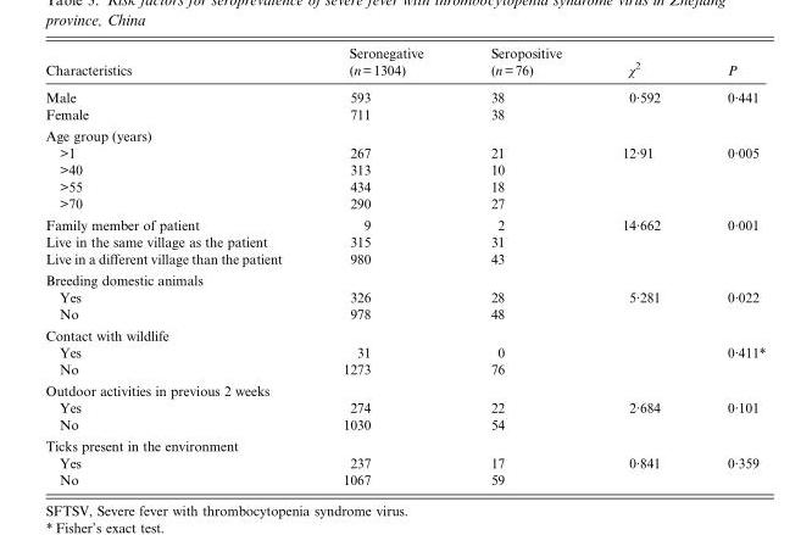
<table><thead><tr><td>Characteristics</td><td>Seronegative (n=1304)</td><td>Seropositive (n=76)</td><td>χ<sup>2</sup></td><td>P</td></tr></thead><tbody><tr><td>Male</td><td>593</td><td>38</td><td>0·592</td><td>0·441</td></tr><tr><td>Female</td><td>711</td><td>38</td><td></td><td></td></tr><tr><td colspan="5">Age group (years)</td></tr><tr><td>&gt;1</td><td>267</td><td>21</td><td>12·91</td><td>0·005</td></tr><tr><td>&gt;40</td><td>313</td><td>10</td><td></td><td></td></tr><tr><td>&gt;55</td><td>434</td><td>18</td><td></td><td></td></tr><tr><td>&gt;70</td><td>290</td><td>27</td><td></td><td></td></tr><tr><td>Family member of patient</td><td>9</td><td>2</td><td>14·662</td><td>0·001</td></tr><tr><td>Live in the same village as the patient</td><td>315</td><td>31</td><td></td><td></td></tr><tr><td>Live in a different village than the patient</td><td>980</td><td>43</td><td></td><td></td></tr><tr><td colspan="5">Breeding domestic animals</td></tr><tr><td>Yes</td><td>326</td><td>28</td><td>5·281</td><td>0·022</td></tr><tr><td>No</td><td>978</td><td>48</td><td></td><td></td></tr><tr><td colspan="5">Contact with wildlife</td></tr><tr><td>Yes</td><td>31</td><td>0</td><td></td><td>0·411*</td></tr><tr><td>No</td><td>1273</td><td>76</td><td></td><td></td></tr><tr><td colspan="5">Outdoor activities in previous 2 weeks</td></tr><tr><td>Yes</td><td>274</td><td>22</td><td>2·684</td><td>0·101</td></tr><tr><td>No</td><td>1030</td><td>54</td><td></td><td></td></tr><tr><td colspan="5">Ticks present in the environment</td></tr><tr><td>Yes</td><td>237</td><td>17</td><td>0·841</td><td>0·359</td></tr><tr><td>No</td><td>1067</td><td>59</td><td></td><td></td></tr></tbody></table>